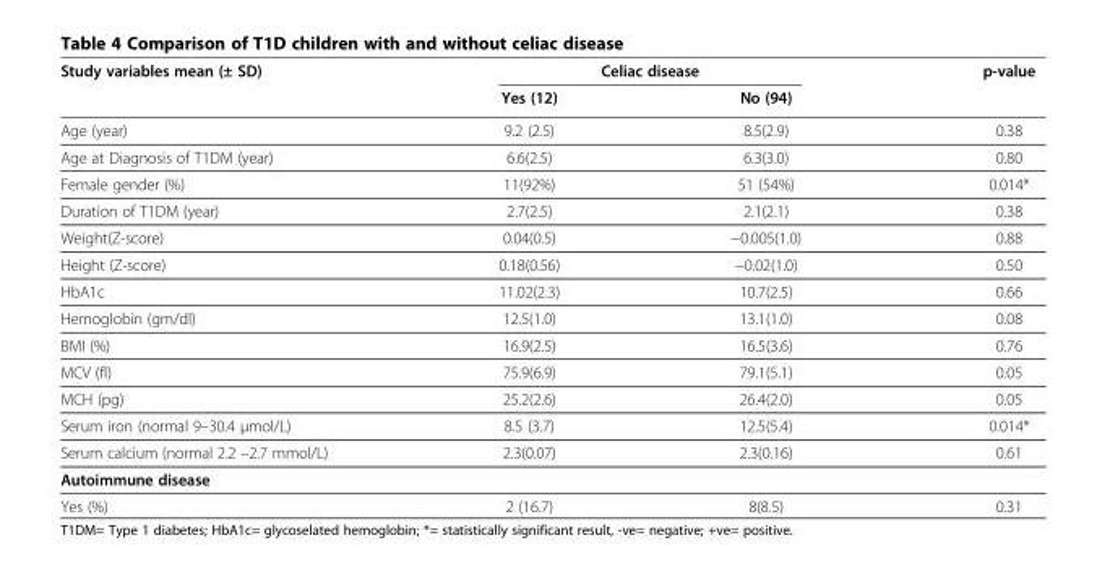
<table><thead><tr><td rowspan="2">Study variables mean (± SD)</td><td colspan="2">Celiac disease</td><td rowspan="2">p-value</td></tr><tr><td>Yes (12)</td><td>No (94)</td></tr></thead><tbody><tr><td>Age (year)</td><td>9.2 (2.5)</td><td>8.5(2.9)</td><td>0.38</td></tr><tr><td>Age at Diagnosis of T1DM (year)</td><td>6.6(2.5)</td><td>6.3(3.0)</td><td>0.80</td></tr><tr><td>Female gender (%)</td><td>11(92%)</td><td>51 (54%)</td><td>0.014*</td></tr><tr><td>Duration of T1DM (year)</td><td>2.7(2.5)</td><td>2.1(2.1)</td><td>0.38</td></tr><tr><td>Weight(Z-score)</td><td>0.04(0.5)</td><td>−0.005(1.0)</td><td>0.88</td></tr><tr><td>Height (Z-score)</td><td>0.18(0.56)</td><td>−0.02(1.0)</td><td>0.50</td></tr><tr><td>HbA1c</td><td>11.02(2.3)</td><td>10.7(2.5)</td><td>0.66</td></tr><tr><td>Hemoglobin (gm/dl)</td><td>12.5(1.0)</td><td>13.1(1.0)</td><td>0.08</td></tr><tr><td>BMI (%)</td><td>16.9(2.5)</td><td>16.5(3.6)</td><td>0.76</td></tr><tr><td>MCV (fl)</td><td>75.9(6.9)</td><td>79.1(5.1)</td><td>0.05</td></tr><tr><td>MCH (pg)</td><td>25.2(2.6)</td><td>26.4(2.0)</td><td>0.05</td></tr><tr><td>Serum iron (normal 9–30.4 μmol/L)</td><td>8.5 (3.7)</td><td>12.5(5.4)</td><td>0.014*</td></tr><tr><td>Serum calcium (normal 2.2 –2.7 mmol/L)</td><td>2.3(0.07)</td><td>2.3(0.16)</td><td>0.61</td></tr><tr><td colspan="4">Autoimmune disease</td></tr><tr><td>Yes (%)</td><td>2 (16.7)</td><td>8(8.5)</td><td>0.31</td></tr></tbody></table>